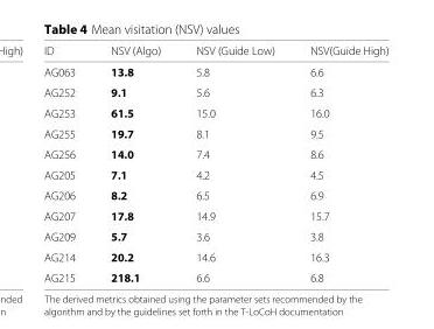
<table><thead><tr><td>ID</td><td>NSV (Algo)</td><td>NSV (Guide Low)</td><td>NSV(Guide High)</td></tr></thead><tbody><tr><td>AG063</td><td>13.8</td><td>5.8</td><td>6.6</td></tr><tr><td>AG252</td><td>9.1</td><td>5.6</td><td>6.3</td></tr><tr><td>AG253</td><td>61.5</td><td>15.0</td><td>16.0</td></tr><tr><td>AG255</td><td>19.7</td><td>8.1</td><td>9.5</td></tr><tr><td>AG256</td><td>14.0</td><td>7.4</td><td>8.6</td></tr><tr><td>AG205</td><td>7.1</td><td>4.2</td><td>4.5</td></tr><tr><td>AG206</td><td>8.2</td><td>6.5</td><td>6.9</td></tr><tr><td>AG207</td><td>17.8</td><td>14.9</td><td>15.7</td></tr><tr><td>AG209</td><td>5.7</td><td>3.6</td><td>3.8</td></tr><tr><td>AG214</td><td>20.2</td><td>14.6</td><td>16.3</td></tr><tr><td>AG215</td><td>218.1</td><td>6.6</td><td>6.8</td></tr></tbody></table>